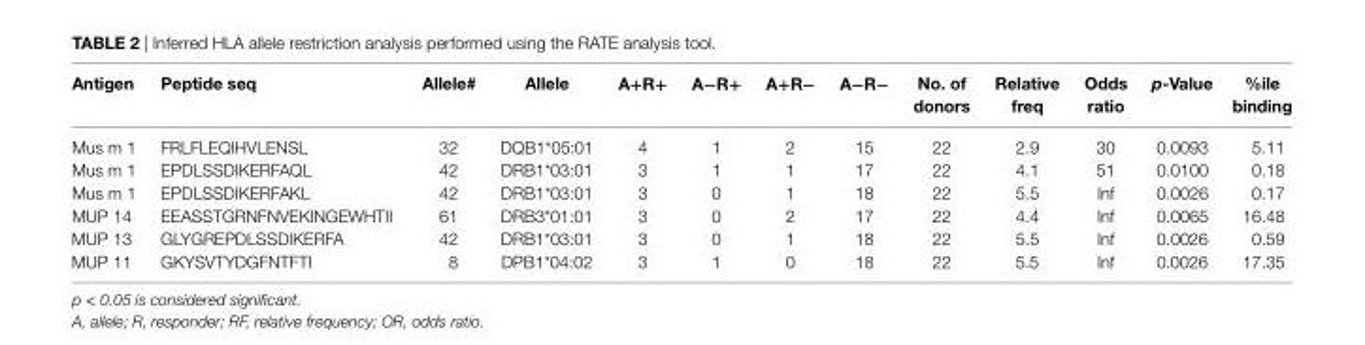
<table><thead><tr><td>antigen</td><td>Peptide seq</td><td>allele#</td><td>allele</td><td>a+r+</td><td>a−r+</td><td>a+r−</td><td>a−r−</td><td>no. of donors</td><td>relative freq</td><td>Odds ratio</td><td>p-Value</td><td>%ile binding</td></tr></thead><tbody><tr><td>Mus m 1</td><td>FRLFLEQIHVLENSL</td><td>32</td><td>DQB1*05:01</td><td>4</td><td>1</td><td>2</td><td>15</td><td>22</td><td>2.9</td><td>30</td><td>0.0093</td><td>5.11</td></tr><tr><td>Mus m 1</td><td>EPDLSSDIKERFAQL</td><td>42</td><td>DRB1*03:01</td><td>3</td><td>1</td><td>1</td><td>17</td><td>22</td><td>4.1</td><td>51</td><td>0.0100</td><td>0.18</td></tr><tr><td>Mus m 1</td><td>EPDLSSDIKERFAKL</td><td>42</td><td>DRB1*03:01</td><td>3</td><td>0</td><td>1</td><td>18</td><td>22</td><td>5.5</td><td>Inf</td><td>0.0026</td><td>0.17</td></tr><tr><td>MUP 14</td><td>EEASSTGRNFNVEKINGEWHTII</td><td>61</td><td>DRB3*01:01</td><td>3</td><td>0</td><td>2</td><td>17</td><td>22</td><td>4.4</td><td>Inf</td><td>0.0065</td><td>16.48</td></tr><tr><td>MUP 13</td><td>GLYGREPDLSSDIKERFA</td><td>42</td><td>DRB1*03:01</td><td>3</td><td>0</td><td>1</td><td>18</td><td>22</td><td>5.5</td><td>Inf</td><td>0.0026</td><td>0.59</td></tr><tr><td>MUP 11</td><td>GKYSVTYDGFNTFTI</td><td>8</td><td>DPB1*04:02</td><td>3</td><td>1</td><td>0</td><td>18</td><td>22</td><td>5.5</td><td>Inf</td><td>0.0026</td><td>17.35</td></tr></tbody></table>